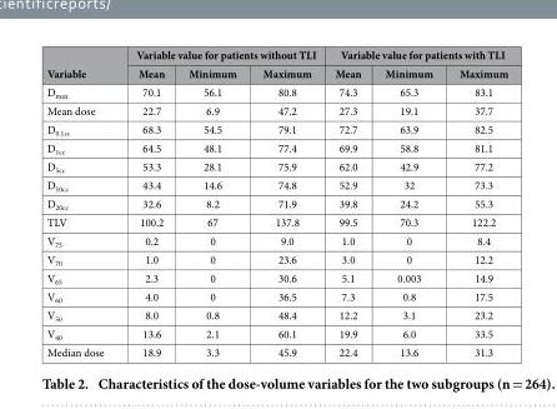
<table><thead><tr><td rowspan="2">Variable</td><td colspan="3">Variable value for patients without TLI</td><td colspan="3">Variable value for patients with TLI</td></tr><tr><td>Mean</td><td>Minimum</td><td>Maximum</td><td>Mean</td><td>Minimum</td><td>Maximum</td></tr></thead><tbody><tr><td>D<sub>max</sub></td><td>70.1</td><td>56.1</td><td>80.8</td><td>74.3</td><td>65.3</td><td>83.1</td></tr><tr><td>Mean dose</td><td>22.7</td><td>6.9</td><td>47.2</td><td>27.3</td><td>19.1</td><td>37.7</td></tr><tr><td>D<sub>0.1cc</sub></td><td>68.3</td><td>54.5</td><td>79.1</td><td>72.7</td><td>63.9</td><td>82.5</td></tr><tr><td>D<sub>1cc</sub></td><td>64.5</td><td>48.1</td><td>77.4</td><td>69.9</td><td>58.8</td><td>81.1</td></tr><tr><td>D<sub>5cc</sub></td><td>53.3</td><td>28.1</td><td>75.9</td><td>62.0</td><td>42.9</td><td>77.2</td></tr><tr><td>D<sub>10cc</sub></td><td>43.4</td><td>14.6</td><td>74.8</td><td>52.9</td><td>32</td><td>73.3</td></tr><tr><td>D<sub>20cc</sub></td><td>32.6</td><td>8.2</td><td>71.9</td><td>39.8</td><td>24.2</td><td>55.3</td></tr><tr><td>TLV</td><td>100.2</td><td>67</td><td>137.8</td><td>99.5</td><td>70.3</td><td>122.2</td></tr><tr><td>V<sub>75</sub></td><td>0.2</td><td>0</td><td>9.0</td><td>1.0</td><td>0</td><td>8.4</td></tr><tr><td>V<sub>70</sub></td><td>1.0</td><td>0</td><td>23.6</td><td>3.0</td><td>0</td><td>12.2</td></tr><tr><td>V<sub>65</sub></td><td>2.3</td><td>0</td><td>30.6</td><td>5.1</td><td>0.003</td><td>14.9</td></tr><tr><td>V<sub>60</sub></td><td>4.0</td><td>0</td><td>36.5</td><td>7.3</td><td>0.8</td><td>17.5</td></tr><tr><td>V<sub>50</sub></td><td>8.0</td><td>0.8</td><td>48.4</td><td>12.2</td><td>3.1</td><td>23.2</td></tr><tr><td>V<sub>40</sub></td><td>13.6</td><td>2.1</td><td>60.1</td><td>19.9</td><td>6.0</td><td>33.5</td></tr><tr><td>Median dose</td><td>18.9</td><td>3.3</td><td>45.9</td><td>22.4</td><td>13.6</td><td>31.3</td></tr></tbody></table>